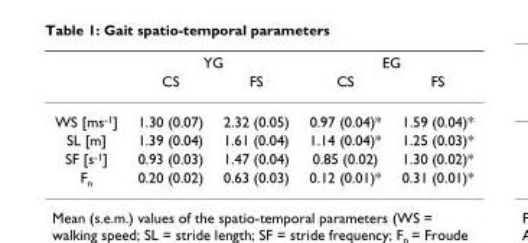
<table><thead><tr><td rowspan="2"></td><td colspan="2">YG</td><td colspan="2">EG</td></tr><tr><td>CS</td><td>FS</td><td>CS</td><td>FS</td></tr></thead><tbody><tr><td>WS [ms<sup>-1</sup>]</td><td>1.30 (0.07)</td><td>2.32 (0.05)</td><td>0.97 (0.04)*</td><td>1.59 (0.04)*</td></tr><tr><td>SL [m]</td><td>1.39 (0.04)</td><td>1.61 (0.04)</td><td>1.14 (0.04)*</td><td>1.25 (0.03)*</td></tr><tr><td>SF [s<sup>-1</sup>]</td><td>0.93 (0.03)</td><td>1.47 (0.04)</td><td>0.85 (0.02)</td><td>1.30 (0.02)*</td></tr><tr><td>F<sub>n</sub></td><td>0.20 (0.02)</td><td>0.63 (0.03)</td><td>0.12 (0.01)*</td><td>0.31 (0.01)*</td></tr></tbody></table>